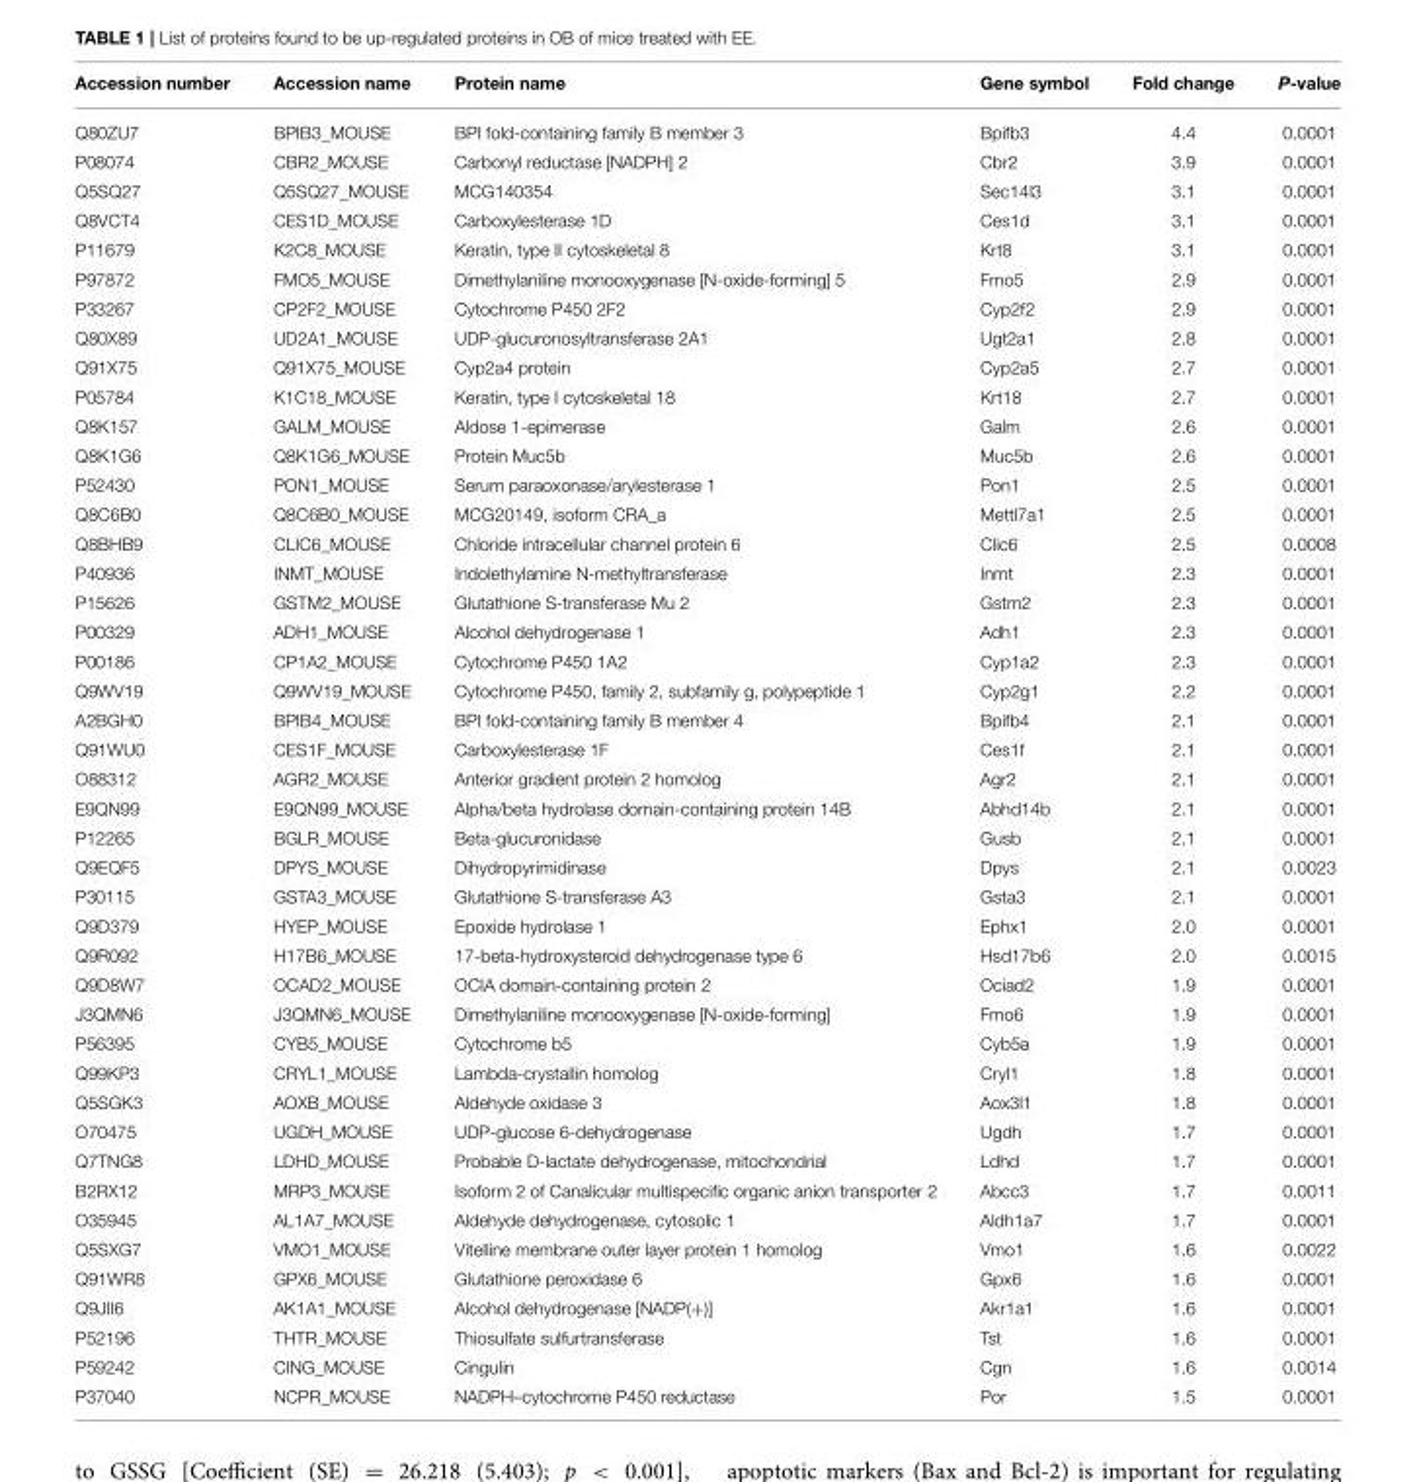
<table><thead><tr><td>Accession number</td><td>Accession name</td><td>Protein name</td><td>Gene symbol</td><td>Fold change</td><td>P-value</td></tr></thead><tbody><tr><td>Q80ZU7</td><td>BPIB3_MOUSE</td><td>BPI fold-containing family B member 3</td><td>Bpifb3</td><td>4.4</td><td>0.0001</td></tr><tr><td>P08074</td><td>CBR2_MOUSE</td><td>Carbonyl reductase [NADPH] 2</td><td>Cbr2</td><td>3.9</td><td>0.0001</td></tr><tr><td>Q5SQ27</td><td>Q5SQ27_MOUSE</td><td>MCG140354</td><td>Sec14l3</td><td>3.1</td><td>0.0001</td></tr><tr><td>Q8VCT4</td><td>CES1D_MOUSE</td><td>Carboxylesterase 1D</td><td>Ces1d</td><td>3.1</td><td>0.0001</td></tr><tr><td>P11679</td><td>K2C8_MOUSE</td><td>Keratin, type II cytoskeletal 8</td><td>Krt8</td><td>3.1</td><td>0.0001</td></tr><tr><td>P97872</td><td>FMO5_MOUSE</td><td>Dimethylaniline monooxygenase [N-oxide-forming] 5</td><td>Fmo5</td><td>2.9</td><td>0.0001</td></tr><tr><td>P33267</td><td>CP2F2_MOUSE</td><td>Cytochrome P450 2F2</td><td>Cyp2f2</td><td>2.9</td><td>0.0001</td></tr><tr><td>Q80X89</td><td>UD2A1_MOUSE</td><td>UDP-glucuronosyltransferase 2A1</td><td>Ugt2a1</td><td>2.8</td><td>0.0001</td></tr><tr><td>Q91X75</td><td>Q91X75_MOUSE</td><td>Cyp2a4 protein</td><td>Cyp2a5</td><td>2.7</td><td>0.0001</td></tr><tr><td>P05784</td><td>K1C18_MOUSE</td><td>Keratin, type I cytoskeletal 18</td><td>Krt18</td><td>2.7</td><td>0.0001</td></tr><tr><td>Q8K157</td><td>GALM_MOUSE</td><td>Aldose 1-epimerase</td><td>Galm</td><td>2.6</td><td>0.0001</td></tr><tr><td>Q8K1G6</td><td>Q8K1G6_MOUSE</td><td>Protein Muc5b</td><td>Muc5b</td><td>2.6</td><td>0.0001</td></tr><tr><td>P52430</td><td>PON1_MOUSE</td><td>Serum paraoxonase/arylesterase 1</td><td>Pon1</td><td>2.5</td><td>0.0001</td></tr><tr><td>Q8C6B0</td><td>Q8C6B0_MOUSE</td><td>MCG20149, isoform CRA_a</td><td>Mettl7a1</td><td>2.5</td><td>0.0001</td></tr><tr><td>Q8BHB9</td><td>CLIC6_MOUSE</td><td>Chloride intracellular channel protein 6</td><td>Clic6</td><td>2.5</td><td>0.0008</td></tr><tr><td>P40936</td><td>INMT_MOUSE</td><td>Indolethylamine N-methyltransferase</td><td>Inmt</td><td>2.3</td><td>0.0001</td></tr><tr><td>P15626</td><td>GSTM2_MOUSE</td><td>Glutathione S-transferase Mu 2</td><td>Gstm2</td><td>2.3</td><td>0.0001</td></tr><tr><td>P00329</td><td>ADH1_MOUSE</td><td>Alcohol dehydrogenase 1</td><td>Adh1</td><td>2.3</td><td>0.0001</td></tr><tr><td>P00186</td><td>CP1A2_MOUSE</td><td>Cytochrome P450 1A2</td><td>Cyp1a2</td><td>2.3</td><td>0.0001</td></tr><tr><td>Q9WV19</td><td>Q9WV19_MOUSE</td><td>Cytochrome P450, family 2, subfamily g, polypeptide 1</td><td>Cyp2g1</td><td>2.2</td><td>0.0001</td></tr><tr><td>A2BGH0</td><td>BPIB4_MOUSE</td><td>BPI fold-containing family B member 4</td><td>Bpifb4</td><td>2.1</td><td>0.0001</td></tr><tr><td>Q91WU0</td><td>CES1F_MOUSE</td><td>Carboxylesterase 1F</td><td>Ces1f</td><td>2.1</td><td>0.0001</td></tr><tr><td>O88312</td><td>AGR2_MOUSE</td><td>Anterior gradient protein 2 homolog</td><td>Agr2</td><td>2.1</td><td>0.0001</td></tr><tr><td>E9QN99</td><td>E9QN99_MOUSE</td><td>Alpha/beta hydrolase domain-containing protein 14B</td><td>Abhd14b</td><td>2.1</td><td>0.0001</td></tr><tr><td>P12265</td><td>BGLR_MOUSE</td><td>Beta-glucuronidase</td><td>Gusb</td><td>2.1</td><td>0.0001</td></tr><tr><td>Q9EQF5</td><td>DPYS_MOUSE</td><td>Dihydropyrimidinase</td><td>Dpys</td><td>2.1</td><td>0.0023</td></tr><tr><td>P30115</td><td>GSTA3_MOUSE</td><td>Glutathione S-transferase A3</td><td>Gsta3</td><td>2.1</td><td>0.0001</td></tr><tr><td>Q9D379</td><td>HYEP_MOUSE</td><td>Epoxide hydrolase 1</td><td>Ephx1</td><td>2.0</td><td>0.0001</td></tr><tr><td>Q9R092</td><td>H17B6_MOUSE</td><td>17-beta-hydroxysteroid dehydrogenase type 6</td><td>Hsd17b6</td><td>2.0</td><td>0.0015</td></tr><tr><td>Q9D8W7</td><td>OCAD2_MOUSE</td><td>OCIA domain-containing protein 2</td><td>Ociad2</td><td>1.9</td><td>0.0001</td></tr><tr><td>J3QMN6</td><td>J3QMN6_MOUSE</td><td>Dimethylaniline monooxygenase [N-oxide-forming]</td><td>Fmo6</td><td>1.9</td><td>0.0001</td></tr><tr><td>P56395</td><td>CYB5_MOUSE</td><td>Cytochrome b5</td><td>Cyb5a</td><td>1.9</td><td>0.0001</td></tr><tr><td>Q99KP3</td><td>CRYL1_MOUSE</td><td>Lambda-crystallin homolog</td><td>Cryl1</td><td>1.8</td><td>0.0001</td></tr><tr><td>Q5SGK3</td><td>AOXB_MOUSE</td><td>Aldehyde oxidase 3</td><td>Aox3l1</td><td>1.8</td><td>0.0001</td></tr><tr><td>O70475</td><td>UGDH_MOUSE</td><td>UDP-glucose 6-dehydrogenase</td><td>Ugdh</td><td>1.7</td><td>0.0001</td></tr><tr><td>Q7TNG8</td><td>LDHD_MOUSE</td><td>Probable D-lactate dehydrogenase, mitochondrial</td><td>Ldhd</td><td>1.7</td><td>0.0001</td></tr><tr><td>B2RX12</td><td>MRP3_MOUSE</td><td>Isoform 2 of Canalicular multispecific organic anion transporter 2</td><td>Abcc3</td><td>1.7</td><td>0.0011</td></tr><tr><td>O35945</td><td>AL1A7_MOUSE</td><td>Aldehyde dehydrogenase, cytosolic 1</td><td>Aldh1a7</td><td>1.7</td><td>0.0001</td></tr><tr><td>Q5SXG7</td><td>VMO1_MOUSE</td><td>Vitelline membrane outer layer protein 1 homolog</td><td>Vmo1</td><td>1.6</td><td>0.0022</td></tr><tr><td>Q91WR8</td><td>GPX6_MOUSE</td><td>Glutathione peroxidase 6</td><td>Gpx6</td><td>1.6</td><td>0.0001</td></tr><tr><td>Q9JII6</td><td>AK1A1_MOUSE</td><td>Alcohol dehydrogenase [NADP(+)]</td><td>Akr1a1</td><td>1.6</td><td>0.0001</td></tr><tr><td>P52196</td><td>THTR_MOUSE</td><td>Thiosulfate sulfurtransferase</td><td>Tst</td><td>1.6</td><td>0.0001</td></tr><tr><td>P59242</td><td>CING_MOUSE</td><td>Cingulin</td><td>Cgn</td><td>1.6</td><td>0.0014</td></tr><tr><td>P37040</td><td>NCPR_MOUSE</td><td>NADPH–cytochrome P450 reductase</td><td>Por</td><td>1.5</td><td>0.0001</td></tr></tbody></table>